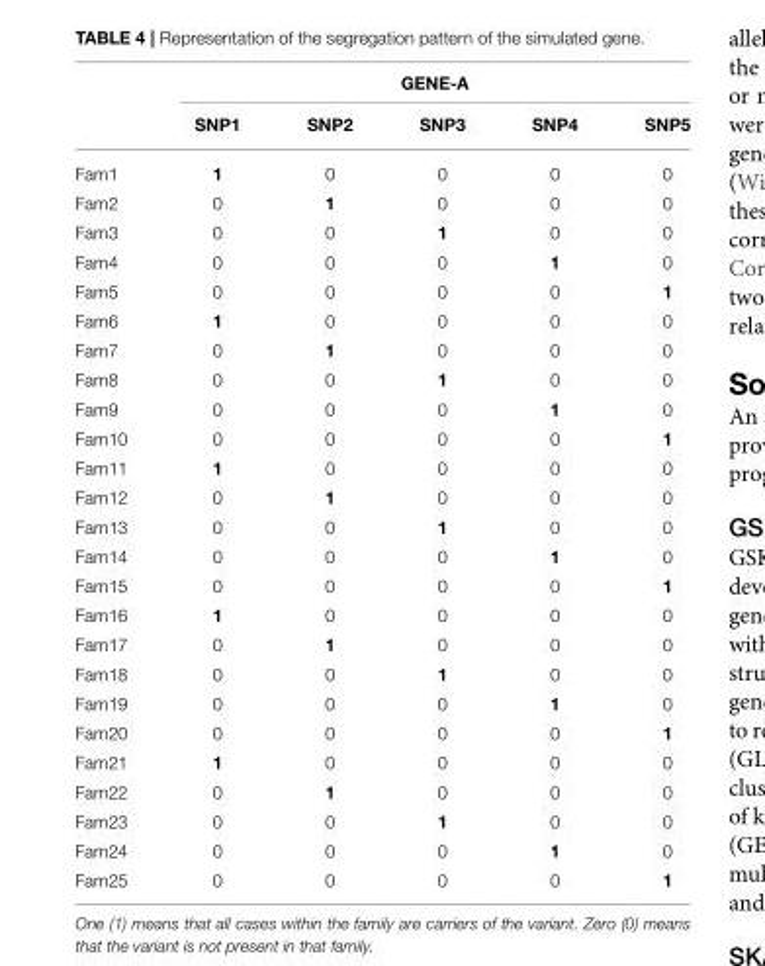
<table><thead><tr><td rowspan="2"></td><td colspan="5">GENE-A</td></tr><tr><td>SNP1</td><td>SNP2</td><td>SNP3</td><td>SNP4</td><td>SNP5</td></tr></thead><tbody><tr><td>Fam1</td><td>1</td><td>0</td><td>0</td><td>0</td><td>0</td></tr><tr><td>Fam2</td><td>0</td><td>1</td><td>0</td><td>0</td><td>0</td></tr><tr><td>Fam3</td><td>0</td><td>0</td><td>1</td><td>0</td><td>0</td></tr><tr><td>Fam4</td><td>0</td><td>0</td><td>0</td><td>1</td><td>0</td></tr><tr><td>Fam5</td><td>0</td><td>0</td><td>0</td><td>0</td><td>1</td></tr><tr><td>Fam6</td><td>1</td><td>0</td><td>0</td><td>0</td><td>0</td></tr><tr><td>Fam7</td><td>0</td><td>1</td><td>0</td><td>0</td><td>0</td></tr><tr><td>Fam8</td><td>0</td><td>0</td><td>1</td><td>0</td><td>0</td></tr><tr><td>Fam9</td><td>0</td><td>0</td><td>0</td><td>1</td><td>0</td></tr><tr><td>Fam10</td><td>0</td><td>0</td><td>0</td><td>0</td><td>1</td></tr><tr><td>Fam11</td><td>1</td><td>0</td><td>0</td><td>0</td><td>0</td></tr><tr><td>Fam12</td><td>0</td><td>1</td><td>0</td><td>0</td><td>0</td></tr><tr><td>Fam13</td><td>0</td><td>0</td><td>1</td><td>0</td><td>0</td></tr><tr><td>Fam14</td><td>0</td><td>0</td><td>0</td><td>1</td><td>0</td></tr><tr><td>Fam15</td><td>0</td><td>0</td><td>0</td><td>0</td><td>1</td></tr><tr><td>Fam16</td><td>1</td><td>0</td><td>0</td><td>0</td><td>0</td></tr><tr><td>Fam17</td><td>0</td><td>1</td><td>0</td><td>0</td><td>0</td></tr><tr><td>Fam18</td><td>0</td><td>0</td><td>1</td><td>0</td><td>0</td></tr><tr><td>Fam19</td><td>0</td><td>0</td><td>0</td><td>1</td><td>0</td></tr><tr><td>Fam20</td><td>0</td><td>0</td><td>0</td><td>0</td><td>1</td></tr><tr><td>Fam21</td><td>1</td><td>0</td><td>0</td><td>0</td><td>0</td></tr><tr><td>Fam22</td><td>0</td><td>1</td><td>0</td><td>0</td><td>0</td></tr><tr><td>Fam23</td><td>0</td><td>0</td><td>1</td><td>0</td><td>0</td></tr><tr><td>Fam24</td><td>0</td><td>0</td><td>0</td><td>1</td><td>0</td></tr><tr><td>Fam25</td><td>0</td><td>0</td><td>0</td><td>0</td><td>1</td></tr></tbody></table>